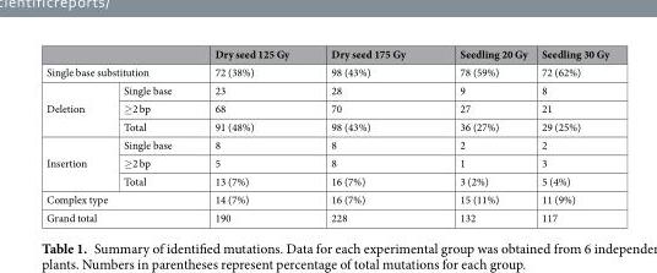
<table><thead><tr><td></td><td></td><td>Dry seed 125 Gy</td><td>Dry seed 175 Gy</td><td>Seedling 20 Gy</td><td>Seedling 30 Gy</td></tr></thead><tbody><tr><td colspan="2">Single base substitution</td><td>72 (38%)</td><td>98 (43%)</td><td>78 (59%)</td><td>72 (62%)</td></tr><tr><td rowspan="3">Deletion</td><td>Single base</td><td>23</td><td>28</td><td>9</td><td>8</td></tr><tr><td>≥2 bp</td><td>68</td><td>70</td><td>27</td><td>21</td></tr><tr><td>Total</td><td>91 (48%)</td><td>98 (43%)</td><td>36 (27%)</td><td>29 (25%)</td></tr><tr><td rowspan="3">Insertion</td><td>Single base</td><td>8</td><td>8</td><td>2</td><td>2</td></tr><tr><td>≥2 bp</td><td>5</td><td>8</td><td>1</td><td>3</td></tr><tr><td>Total</td><td>13 (7%)</td><td>16 (7%)</td><td>3 (2%)</td><td>5 (4%)</td></tr><tr><td colspan="2">Complex type</td><td>14 (7%)</td><td>16 (7%)</td><td>15 (11%)</td><td>11 (9%)</td></tr><tr><td colspan="2">Grand total</td><td>190</td><td>228</td><td>132</td><td>117</td></tr></tbody></table>